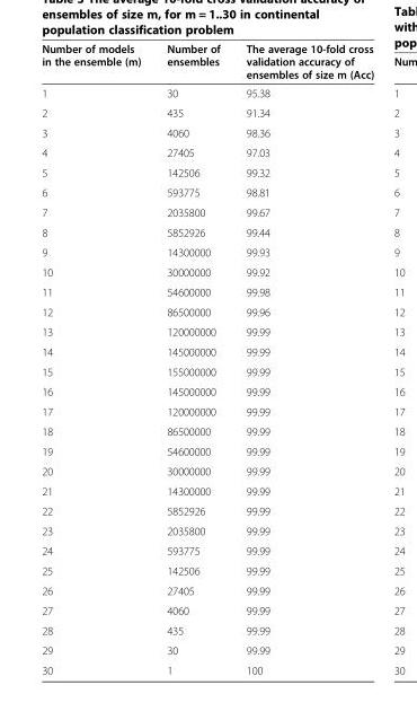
<table><thead><tr><td>Number of models in the ensemble (m)</td><td>Number of ensembles</td><td>The average 10-fold cross validation accuracy of ensembles of size m (Acc)</td></tr></thead><tbody><tr><td>1</td><td>30</td><td>95.38</td></tr><tr><td>2</td><td>435</td><td>91.34</td></tr><tr><td>3</td><td>4060</td><td>98.36</td></tr><tr><td>4</td><td>27405</td><td>97.03</td></tr><tr><td>5</td><td>142506</td><td>99.32</td></tr><tr><td>6</td><td>593775</td><td>98.81</td></tr><tr><td>7</td><td>2035800</td><td>99.67</td></tr><tr><td>8</td><td>5852926</td><td>99.44</td></tr><tr><td>9</td><td>14300000</td><td>99.93</td></tr><tr><td>10</td><td>30000000</td><td>99.92</td></tr><tr><td>11</td><td>54600000</td><td>99.98</td></tr><tr><td>12</td><td>86500000</td><td>99.96</td></tr><tr><td>13</td><td>120000000</td><td>99.99</td></tr><tr><td>14</td><td>145000000</td><td>99.99</td></tr><tr><td>15</td><td>155000000</td><td>99.99</td></tr><tr><td>16</td><td>145000000</td><td>99.99</td></tr><tr><td>17</td><td>120000000</td><td>99.99</td></tr><tr><td>18</td><td>86500000</td><td>99.99</td></tr><tr><td>19</td><td>54600000</td><td>99.99</td></tr><tr><td>20</td><td>30000000</td><td>99.99</td></tr><tr><td>21</td><td>14300000</td><td>99.99</td></tr><tr><td>22</td><td>5852926</td><td>99.99</td></tr><tr><td>23</td><td>2035800</td><td>99.99</td></tr><tr><td>24</td><td>593775</td><td>99.99</td></tr><tr><td>25</td><td>142506</td><td>99.99</td></tr><tr><td>26</td><td>27405</td><td>99.99</td></tr><tr><td>27</td><td>4060</td><td>99.99</td></tr><tr><td>28</td><td>435</td><td>99.99</td></tr><tr><td>29</td><td>30</td><td>99.99</td></tr><tr><td>30</td><td>1</td><td>100</td></tr></tbody></table>